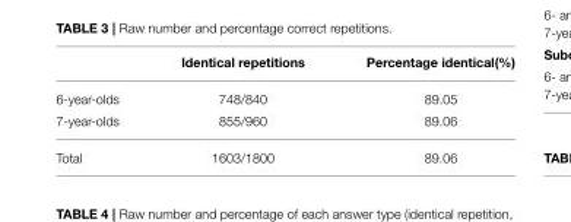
<table><thead><tr><td></td><td>Identical repetitions</td><td>Percentage identical(%)</td></tr></thead><tbody><tr><td>6-year-olds</td><td>748/840</td><td>89.05</td></tr><tr><td>7-year-olds</td><td>855/960</td><td>89.06</td></tr><tr><td>Total</td><td>1603/1800</td><td>89.06</td></tr></tbody></table>